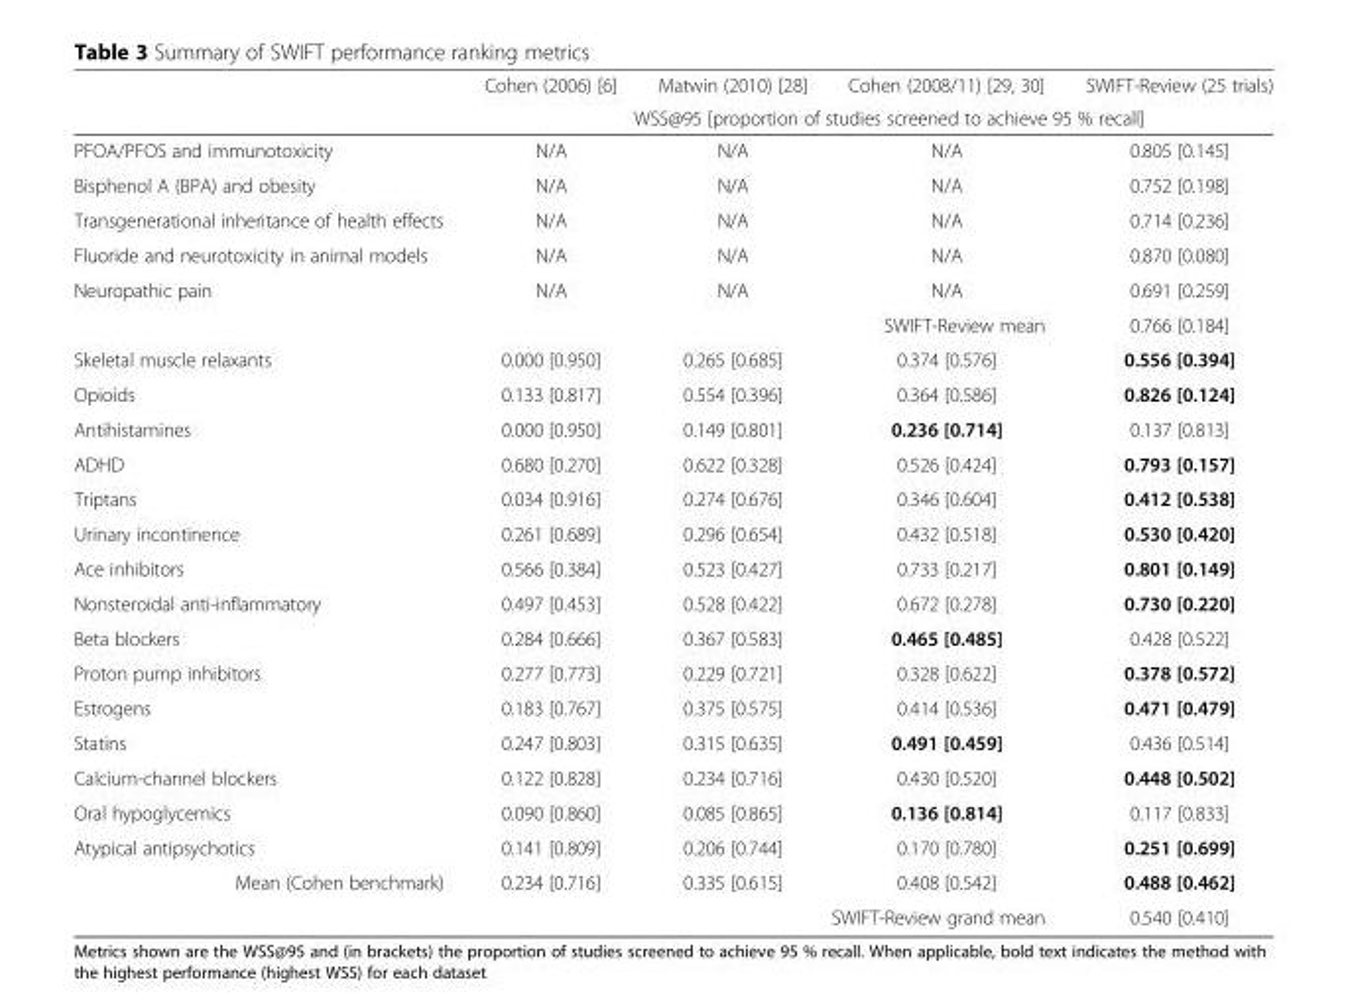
<table><thead><tr><td rowspan="2"></td><td>Cohen (2006) [6]</td><td>Matwin (2010) [28]</td><td>Cohen (2008/11) [29, 30]</td><td>SWIFT-Review (25 trials)</td></tr><tr><td colspan="4">WSS@95 [proportion of studies screened to achieve 95 % recall]</td></tr></thead><tbody><tr><td>PFOA/PFOS and immunotoxicity</td><td>N/A</td><td>N/A</td><td>N/A</td><td>0.805 [0.145]</td></tr><tr><td>Bisphenol A (BPA) and obesity</td><td>N/A</td><td>N/A</td><td>N/A</td><td>0.752 [0.198]</td></tr><tr><td>Transgenerational inheritance of health effects</td><td>N/A</td><td>N/A</td><td>N/A</td><td>0.714 [0.236]</td></tr><tr><td>Fluoride and neurotoxicity in animal models</td><td>N/A</td><td>N/A</td><td>N/A</td><td>0.870 [0.080]</td></tr><tr><td>Neuropathic pain</td><td>N/A</td><td>N/A</td><td>N/A</td><td>0.691 [0.259]</td></tr><tr><td colspan="4">SWIFT-Review mean</td><td>0.766 [0.184]</td></tr><tr><td>Skeletal muscle relaxants</td><td>0.000 [0.950]</td><td>0.265 [0.685]</td><td>0.374 [0.576]</td><td>0.556 [0.394]</td></tr><tr><td>Opioids</td><td>0.133 [0.817]</td><td>0.554 [0.396]</td><td>0.364 [0.586]</td><td>0.826 [0.124]</td></tr><tr><td>Antihistamines</td><td>0.000 [0.950]</td><td>0.149 [0.801]</td><td>0.236 [0.714]</td><td>0.137 [0.813]</td></tr><tr><td>ADHD</td><td>0.680 [0.270]</td><td>0.622 [0.328]</td><td>0.526 [0.424]</td><td>0.793 [0.157]</td></tr><tr><td>Triptans</td><td>0.034 [0.916]</td><td>0.274 [0.676]</td><td>0.346 [0.604]</td><td>0.412 [0.538]</td></tr><tr><td>Urinary incontinence</td><td>0.261 [0.689]</td><td>0.296 [0.654]</td><td>0.432 [0.518]</td><td>0.530 [0.420]</td></tr><tr><td>Ace inhibitors</td><td>0.566 [0.384]</td><td>0.523 [0.427]</td><td>0.733 [0.217]</td><td>0.801 [0.149]</td></tr><tr><td>Nonsteroidal anti-inflammatory</td><td>0.497 [0.453]</td><td>0.528 [0.422]</td><td>0.672 [0.278]</td><td>0.730 [0.220]</td></tr><tr><td>Beta blockers</td><td>0.284 [0.666]</td><td>0.367 [0.583]</td><td>0.465 [0.485]</td><td>0.428 [0.522]</td></tr><tr><td>Proton pump inhibitors</td><td>0.277 [0.773]</td><td>0.229 [0.721]</td><td>0.328 [0.622]</td><td>0.378 [0.572]</td></tr><tr><td>Estrogens</td><td>0.183 [0.767]</td><td>0.375 [0.575]</td><td>0.414 [0.536]</td><td>0.471 [0.479]</td></tr><tr><td>Statins</td><td>0.247 [0.803]</td><td>0.315 [0.635]</td><td>0.491 [0.459]</td><td>0.436 [0.514]</td></tr><tr><td>Calcium-channel blockers</td><td>0.122 [0.828]</td><td>0.234 [0.716]</td><td>0.430 [0.520]</td><td>0.448 [0.502]</td></tr><tr><td>Oral hypoglycemics</td><td>0.090 [0.860]</td><td>0.085 [0.865]</td><td>0.136 [0.814]</td><td>0.117 [0.833]</td></tr><tr><td>Atypical antipsychotics</td><td>0.141 [0.809]</td><td>0.206 [0.744]</td><td>0.170 [0.780]</td><td>0.251 [0.699]</td></tr><tr><td>Mean (Cohen benchmark)</td><td>0.234 [0.716]</td><td>0.335 [0.615]</td><td>0.408 [0.542]</td><td>0.488 [0.462]</td></tr><tr><td colspan="4">SWIFT-Review grand mean</td><td>0.540 [0.410]</td></tr></tbody></table>